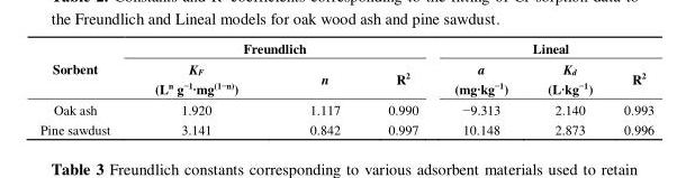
<table><thead><tr><td rowspan="2">Sorbent</td><td colspan="3">Freundlich</td><td colspan="3">Lineal</td></tr><tr><td>K<sub>F</sub> (L<sup>n</sup> g<sup>−1</sup>·mg<sup>(1−n)</sup>)</td><td>n</td><td>R<sup>2</sup></td><td>a (mg·kg<sup>−1</sup>)</td><td>Kd (Lkg−1)</td><td>R<sup>2</sup></td></tr></thead><tbody><tr><td>Oak ash</td><td>1.920</td><td>1.117</td><td>0.990</td><td>−9.313</td><td>2.140</td><td>0.993</td></tr><tr><td>Pine sawdust</td><td>3.141</td><td>0.842</td><td>0.997</td><td>10.148</td><td>2.873</td><td>0.996</td></tr></tbody></table>